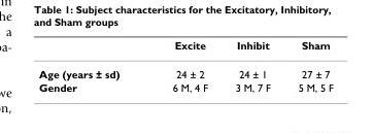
<table><thead><tr><td></td><td>Excite</td><td>Inhibit</td><td>Sham</td></tr></thead><tbody><tr><td>Age (years ± sd)</td><td>24 ± 2</td><td>24 ± 1</td><td>27 ± 7</td></tr><tr><td>Gender</td><td>6 M, 4 F</td><td>3 M, 7 F</td><td>5 M, 5 F</td></tr></tbody></table>